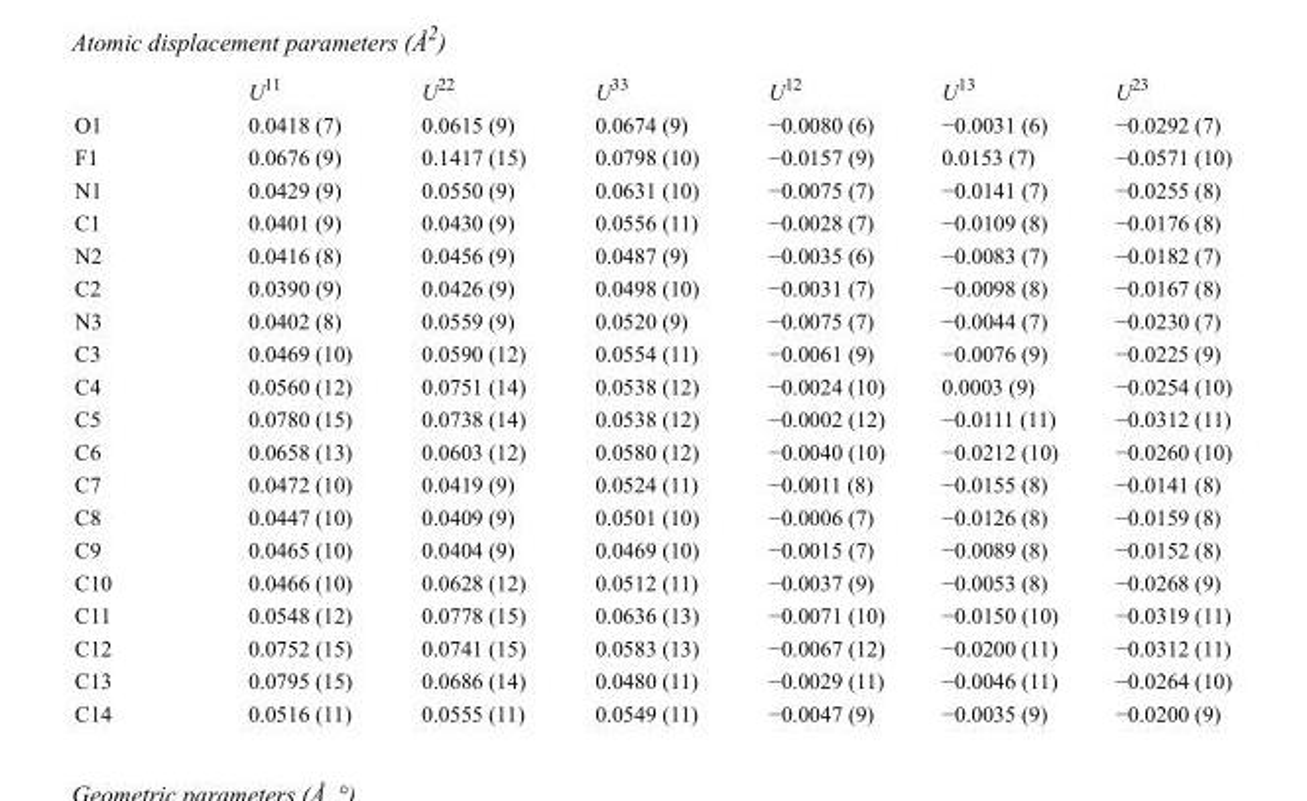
<table><thead><tr><td></td><td>U<sup>11</sup></td><td>U<sup>22</sup></td><td>U<sup>33</sup></td><td>U<sup>12</sup></td><td>U<sup>13</sup></td><td>U<sup>23</sup></td></tr></thead><tbody><tr><td>O1</td><td>0.0418 (7)</td><td>0.0615 (9)</td><td>0.0674 (9)</td><td>−0.0080 (6)</td><td>−0.0031 (6)</td><td>−0.0292 (7)</td></tr><tr><td>F1</td><td>0.0676 (9)</td><td>0.1417 (15)</td><td>0.0798 (10)</td><td>−0.0157 (9)</td><td>0.0153 (7)</td><td>−0.0571 (10)</td></tr><tr><td>N1</td><td>0.0429 (9)</td><td>0.0550 (9)</td><td>0.0631 (10)</td><td>−0.0075 (7)</td><td>−0.0141 (7)</td><td>−0.0255 (8)</td></tr><tr><td>C1</td><td>0.0401 (9)</td><td>0.0430 (9)</td><td>0.0556 (11)</td><td>−0.0028 (7)</td><td>−0.0109 (8)</td><td>−0.0176 (8)</td></tr><tr><td>N2</td><td>0.0416 (8)</td><td>0.0456 (9)</td><td>0.0487 (9)</td><td>−0.0035 (6)</td><td>−0.0083 (7)</td><td>−0.0182 (7)</td></tr><tr><td>C2</td><td>0.0390 (9)</td><td>0.0426 (9)</td><td>0.0498 (10)</td><td>−0.0031 (7)</td><td>−0.0098 (8)</td><td>−0.0167 (8)</td></tr><tr><td>N3</td><td>0.0402 (8)</td><td>0.0559 (9)</td><td>0.0520 (9)</td><td>−0.0075 (7)</td><td>−0.0044 (7)</td><td>−0.0230 (7)</td></tr><tr><td>C3</td><td>0.0469 (10)</td><td>0.0590 (12)</td><td>0.0554 (11)</td><td>−0.0061 (9)</td><td>−0.0076 (9)</td><td>−0.0225 (9)</td></tr><tr><td>C4</td><td>0.0560 (12)</td><td>0.0751 (14)</td><td>0.0538 (12)</td><td>−0.0024 (10)</td><td>0.0003 (9)</td><td>−0.0254 (10)</td></tr><tr><td>C5</td><td>0.0780 (15)</td><td>0.0738 (14)</td><td>0.0538 (12)</td><td>−0.0002 (12)</td><td>−0.0111 (11)</td><td>−0.0312 (11)</td></tr><tr><td>C6</td><td>0.0658 (13)</td><td>0.0603 (12)</td><td>0.0580 (12)</td><td>−0.0040 (10)</td><td>−0.0212 (10)</td><td>−0.0260 (10)</td></tr><tr><td>C7</td><td>0.0472 (10)</td><td>0.0419 (9)</td><td>0.0524 (11)</td><td>−0.0011 (8)</td><td>−0.0155 (8)</td><td>−0.0141 (8)</td></tr><tr><td>C8</td><td>0.0447 (10)</td><td>0.0409 (9)</td><td>0.0501 (10)</td><td>−0.0006 (7)</td><td>−0.0126 (8)</td><td>−0.0159 (8)</td></tr><tr><td>C9</td><td>0.0465 (10)</td><td>0.0404 (9)</td><td>0.0469 (10)</td><td>−0.0015 (7)</td><td>−0.0089 (8)</td><td>−0.0152 (8)</td></tr><tr><td>C10</td><td>0.0466 (10)</td><td>0.0628 (12)</td><td>0.0512 (11)</td><td>−0.0037 (9)</td><td>−0.0053 (8)</td><td>−0.0268 (9)</td></tr><tr><td>C11</td><td>0.0548 (12)</td><td>0.0778 (15)</td><td>0.0636 (13)</td><td>−0.0071 (10)</td><td>−0.0150 (10)</td><td>−0.0319 (11)</td></tr><tr><td>C12</td><td>0.0752 (15)</td><td>0.0741 (15)</td><td>0.0583 (13)</td><td>−0.0067 (12)</td><td>−0.0200 (11)</td><td>−0.0312 (11)</td></tr><tr><td>C13</td><td>0.0795 (15)</td><td>0.0686 (14)</td><td>0.0480 (11)</td><td>−0.0029 (11)</td><td>−0.0046 (11)</td><td>−0.0264 (10)</td></tr><tr><td>C14</td><td>0.0516 (11)</td><td>0.0555 (11)</td><td>0.0549 (11)</td><td>−0.0047 (9)</td><td>−0.0035 (9)</td><td>−0.0200 (9)</td></tr></tbody></table>